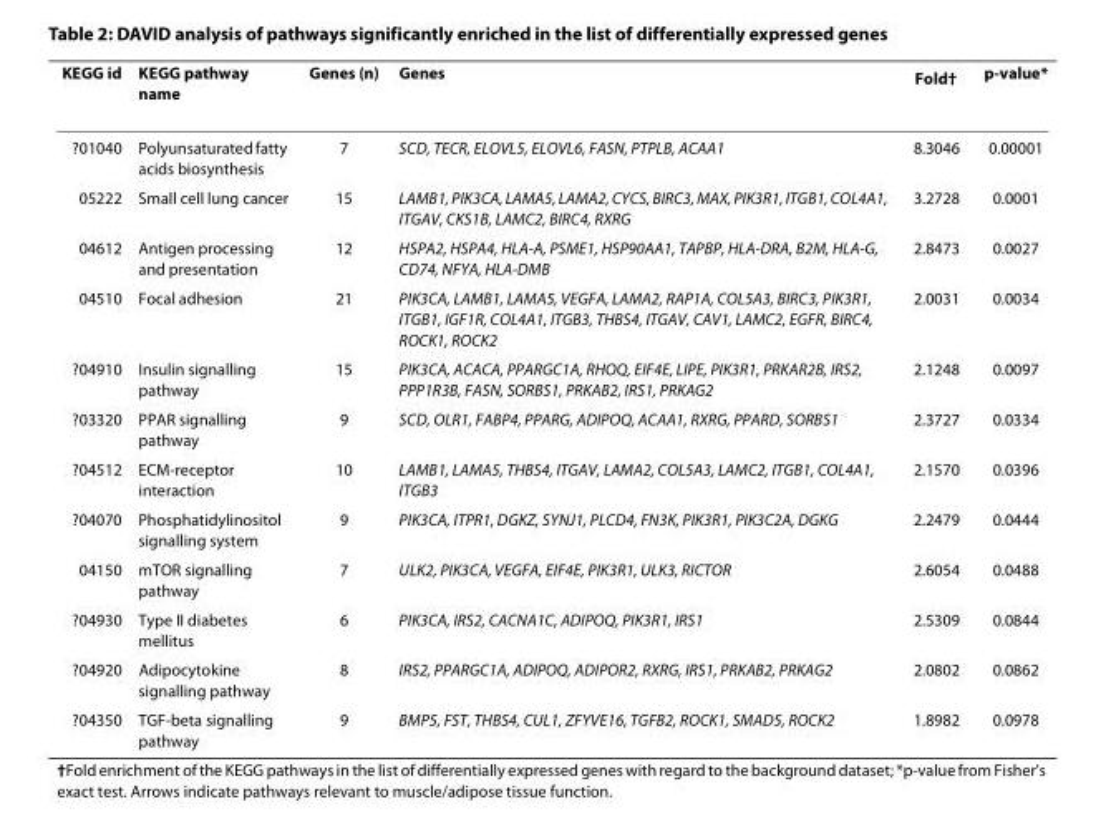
<table><thead><tr><td>KEGG id</td><td>KEGG pathway name</td><td>Genes (n)</td><td>Genes</td><td>Fold<sup>†</sup></td><td>p-value*</td></tr></thead><tbody><tr><td>►01040</td><td>Polyunsaturated fatty acids biosynthesis</td><td>7</td><td>SCD, TECR, ELOVL5, ELOVL6, FASN, PTPLB, ACAA1</td><td>8.3046</td><td>0.00001</td></tr><tr><td>05222</td><td>Small cell lung cancer</td><td>15</td><td>LAMB1, PIK3CA, LAMA5, LAMA2, CYCS, BIRC3, MAX, PIK3R1, ITGB1, COL4A1, ITGAV, CKS1B, LAMC2, BIRC4, RXRG</td><td>3.2728</td><td>0.0001</td></tr><tr><td>04612</td><td>Antigen processing and presentation</td><td>12</td><td>HSPA2, HSPA4, HLA-A, PSME1, HSP90AA1, TAPBP, HLA-DRA, B2M, HLA-G, CD74, NFYA, HLA-DMB</td><td>2.8473</td><td>0.0027</td></tr><tr><td>04510</td><td>Focal adhesion</td><td>21</td><td>PIK3CA, LAMB1, LAMA5, VEGFA, LAMA2, RAP1A, COL5A3, BIRC3, PIK3R1, ITGB1, IGF1R, COL4A1, ITGB3, THBS4, ITGAV, CAV1, LAMC2, EGFR, BIRC4, ROCK1, ROCK2</td><td>2.0031</td><td>0.0034</td></tr><tr><td>►04910</td><td>Insulin signalling pathway</td><td>15</td><td>PIK3CA, ACACA, PPARGC1A, RHOQ, EIF4E, LIPE, PIK3R1, PRKAR2B, IRS2, PPP1R3B, FASN, SORBS1, PRKAB2, IRS1, PRKAG2</td><td>2.1248</td><td>0.0097</td></tr><tr><td>►03320</td><td>PPAR signalling pathway</td><td>9</td><td>SCD, OLR1, FABP4, PPARG, ADIPOQ, ACAA1, RXRG, PPARD, SORBS1</td><td>2.3727</td><td>0.0334</td></tr><tr><td>►04512</td><td>ECM-receptor interaction</td><td>10</td><td>LAMB1, LAMA5, THBS4, ITGAV, LAMA2, COL5A3, LAMC2, ITGB1, COL4A1, ITGB3</td><td>2.1570</td><td>0.0396</td></tr><tr><td>►04070</td><td>Phosphatidylinositol signalling system</td><td>9</td><td>PIK3CA, ITPR1, DGKZ, SYNJ1, PLCD4, FN3K, PIK3R1, PIK3C2A, DGKG</td><td>2.2479</td><td>0.0444</td></tr><tr><td>04150</td><td>mTOR signalling pathway</td><td>7</td><td>ULK2, PIK3CA, VEGFA, EIF4E, PIK3R1, ULK3, RICTOR</td><td>2.6054</td><td>0.0488</td></tr><tr><td>►04930</td><td>Type II diabetes mellitus</td><td>6</td><td>PIK3CA, IRS2, CACNA1C, ADIPOQ, PIK3R1, IRS1</td><td>2.5309</td><td>0.0844</td></tr><tr><td>►04920</td><td>Adipocytokine signalling pathway</td><td>8</td><td>IRS2, PPARGC1A, ADIPOQ, ADIPOR2, RXRG, IRS1, PRKAB2, PRKAG2</td><td>2.0802</td><td>0.0862</td></tr><tr><td>►04350</td><td>TGF-beta signalling pathway</td><td>9</td><td>BMP5, FST, THBS4, CUL1, ZFYVE16, TGFB2, ROCK1, SMAD5, ROCK2</td><td>1.8982</td><td>0.0978</td></tr></tbody></table>